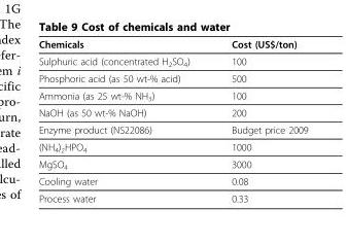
<table><thead><tr><td>Chemicals</td><td>Cost (US$/ton)</td></tr></thead><tbody><tr><td>Sulphuric acid (concentrated H<sub>2</sub>SO<sub>4</sub>)</td><td>100</td></tr><tr><td>Phosphoric acid (as 50 wt-% acid)</td><td>500</td></tr><tr><td>Ammonia (as 25 wt-% NH<sub>3</sub>)</td><td>100</td></tr><tr><td>NaOH (as 50 wt-% NaOH)</td><td>200</td></tr><tr><td>Enzyme product (NS22086)</td><td>Budget price 2009</td></tr><tr><td>(NH<sub>4</sub>)<sub>2</sub>HPO<sub>4</sub></td><td>1000</td></tr><tr><td>MgSO<sub>4</sub></td><td>3000</td></tr><tr><td>Cooling water</td><td>0.08</td></tr><tr><td>Process water</td><td>0.33</td></tr></tbody></table>